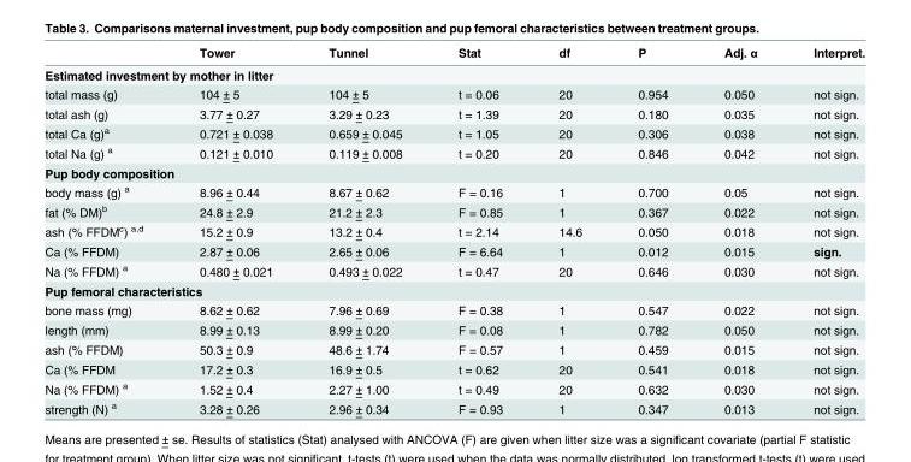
<table><thead><tr><td></td><td>Tower</td><td>Tunnel</td><td>Stat</td><td>df</td><td>P</td><td>Adj. α</td><td>Interpret.</td></tr></thead><tbody><tr><td colspan="8">Estimated investment by mother in litter</td></tr><tr><td>total mass (g)</td><td>104 ± 5</td><td>104 ± 5</td><td>t = 0.06</td><td>20</td><td>0.954</td><td>0.050</td><td>not sign.</td></tr><tr><td>total ash (g)</td><td>3.77 ± 0.27</td><td>3.29 ± 0.23</td><td>t = 1.39</td><td>20</td><td>0.180</td><td>0.035</td><td>not sign.</td></tr><tr><td>total Ca (g)<sup>a</sup></td><td>0.721 ± 0.038</td><td>0.659 ± 0.045</td><td>t = 1.05</td><td>20</td><td>0.306</td><td>0.038</td><td>not sign.</td></tr><tr><td>total Na (g) <sup>a</sup></td><td>0.121 ± 0.010</td><td>0.119 ± 0.008</td><td>t = 0.20</td><td>20</td><td>0.846</td><td>0.042</td><td>not sign.</td></tr><tr><td colspan="8">Pup body composition</td></tr><tr><td>body mass (g) <sup>a</sup></td><td>8.96 ± 0.44</td><td>8.67 ± 0.62</td><td>F = 0.16</td><td>1</td><td>0.700</td><td>0.05</td><td>not sign.</td></tr><tr><td>fat (% DM)<sup>b</sup></td><td>24.8 ± 2.9</td><td>21.2 ± 2.3</td><td>F = 0.85</td><td>1</td><td>0.367</td><td>0.022</td><td>not sign.</td></tr><tr><td>ash (% FFDM<sup>c</sup>) <sup>a,d</sup></td><td>15.2 ± 0.9</td><td>13.2 ± 0.4</td><td>t = 2.14</td><td>14.6</td><td>0.050</td><td>0.018</td><td>not sign.</td></tr><tr><td>Ca (% FFDM)</td><td>2.87 ± 0.06</td><td>2.65 ± 0.06</td><td>F = 6.64</td><td>1</td><td>0.012</td><td>0.015</td><td>sign.</td></tr><tr><td>Na (% FFDM) <sup>a</sup></td><td>0.480 ± 0.021</td><td>0.493 ± 0.022</td><td>t = 0.47</td><td>20</td><td>0.646</td><td>0.030</td><td>not sign.</td></tr><tr><td colspan="8">Pup femoral characteristics</td></tr><tr><td>bone mass (mg)</td><td>8.62 ± 0.62</td><td>7.96 ± 0.69</td><td>F = 0.38</td><td>1</td><td>0.547</td><td>0.022</td><td>not sign.</td></tr><tr><td>length (mm)</td><td>8.99 ± 0.13</td><td>8.99 ± 0.20</td><td>F = 0.08</td><td>1</td><td>0.782</td><td>0.050</td><td>not sign.</td></tr><tr><td>ash (% FFDM)</td><td>50.3 ± 0.9</td><td>48.6 ± 1.74</td><td>F = 0.57</td><td>1</td><td>0.459</td><td>0.015</td><td>not sign.</td></tr><tr><td>Ca (% FFDM</td><td>17.2 ± 0.3</td><td>16.9 ± 0.5</td><td>t = 0.62</td><td>20</td><td>0.541</td><td>0.018</td><td>not sign.</td></tr><tr><td>Na (% FFDM) <sup>a</sup></td><td>1.52 ± 0.4</td><td>2.27 ± 1.00</td><td>t = 0.49</td><td>20</td><td>0.632</td><td>0.030</td><td>not sign.</td></tr><tr><td>strength (N) <sup>a</sup></td><td>3.28 ± 0.26</td><td>2.96 ± 0.34</td><td>F = 0.93</td><td>1</td><td>0.347</td><td>0.013</td><td>not sign.</td></tr></tbody></table>